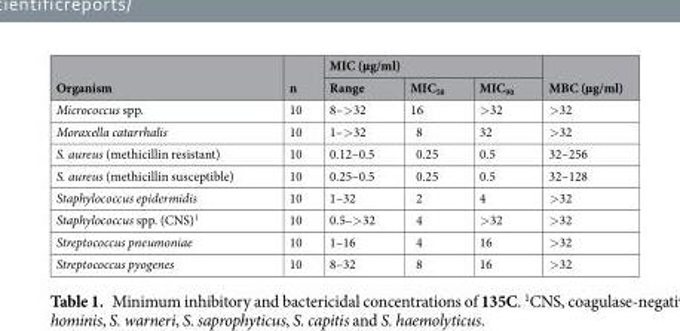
<table><thead><tr><td rowspan="2">Organism</td><td rowspan="2">n</td><td colspan="3">MIC (µg/ml)</td><td rowspan="2">MBC (µg/ml)</td></tr><tr><td>Range</td><td>MIC<sub>50</sub></td><td>MIC<sub>90</sub></td></tr></thead><tbody><tr><td>Micrococcus spp.</td><td>10</td><td>8–&gt;32</td><td>16</td><td>&gt;32</td><td>&gt;32</td></tr><tr><td>Moraxella catarrhalis</td><td>10</td><td>1–&gt;32</td><td>8</td><td>32</td><td>&gt;32</td></tr><tr><td>S. aureus (methicillin resistant)</td><td>10</td><td>0.12–0.5</td><td>0.25</td><td>0.5</td><td>32–256</td></tr><tr><td>S. aureus (methicillin susceptible)</td><td>10</td><td>0.25–0.5</td><td>0.25</td><td>0.5</td><td>32–128</td></tr><tr><td>Staphylococcus epidermidis</td><td>10</td><td>1–32</td><td>2</td><td>4</td><td>&gt;32</td></tr><tr><td>Staphylococcus spp. (CNS)<sup>1</sup></td><td>10</td><td>0.5–&gt;32</td><td>4</td><td>&gt;32</td><td>&gt;32</td></tr><tr><td>Streptococcus pneumoniae</td><td>10</td><td>1–16</td><td>4</td><td>16</td><td>&gt;32</td></tr><tr><td>Streptococcus pyogenes</td><td>10</td><td>8–32</td><td>8</td><td>16</td><td>&gt;32</td></tr></tbody></table>